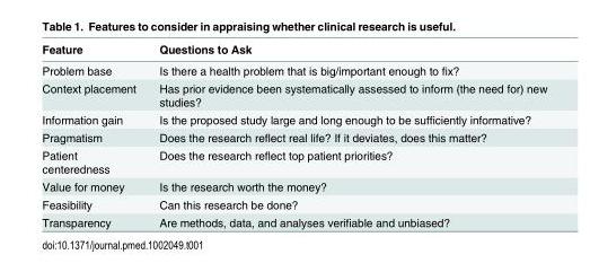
<table><thead><tr><td>Feature</td><td>Questions to Ask</td></tr></thead><tbody><tr><td>Problem base</td><td>Is there a health problem that is big/important enough to fix?</td></tr><tr><td>Context placement</td><td>Has prior evidence been systematically assessed to inform (the need for) new studies?</td></tr><tr><td>Information gain</td><td>Is the proposed study large and long enough to be sufficiently informative?</td></tr><tr><td>Pragmatism</td><td>Does the research reflect real life? If it deviates, does this matter?</td></tr><tr><td>Patient centeredness</td><td>Does the research reflect top patient priorities?</td></tr><tr><td>Value for money</td><td>Is the research worth the money?</td></tr><tr><td>Feasibility</td><td>Can this research be done?</td></tr><tr><td>Transparency</td><td>Are methods, data, and analyses verifiable and unbiased?</td></tr></tbody></table>